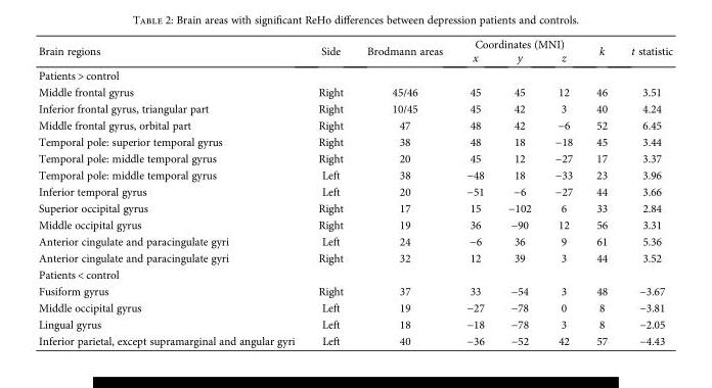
<table><thead><tr><td rowspan="2">Brain regions</td><td rowspan="2">Side</td><td rowspan="2">Brodmann areas</td><td colspan="3">Coordinates (MNI)</td><td rowspan="2">k</td><td rowspan="2">t statistic</td></tr><tr><td>x</td><td>y</td><td>z</td></tr></thead><tbody><tr><td colspan="8">Patients &gt; control</td></tr><tr><td>Middle frontal gyrus</td><td>Right</td><td>45/46</td><td>45</td><td>45</td><td>12</td><td>46</td><td>3.51</td></tr><tr><td>Inferior frontal gyrus, triangular part</td><td>Right</td><td>10/45</td><td>45</td><td>42</td><td>3</td><td>40</td><td>4.24</td></tr><tr><td>Middle frontal gyrus, orbital part</td><td>Right</td><td>47</td><td>48</td><td>42</td><td>−6</td><td>52</td><td>6.45</td></tr><tr><td>Temporal pole: superior temporal gyrus</td><td>Right</td><td>38</td><td>48</td><td>18</td><td>−18</td><td>45</td><td>3.44</td></tr><tr><td>Temporal pole: middle temporal gyrus</td><td>Right</td><td>20</td><td>45</td><td>12</td><td>−27</td><td>17</td><td>3.37</td></tr><tr><td>Temporal pole: middle temporal gyrus</td><td>Left</td><td>38</td><td>−48</td><td>18</td><td>−33</td><td>23</td><td>3.96</td></tr><tr><td>Inferior temporal gyrus</td><td>Left</td><td>20</td><td>−51</td><td>−6</td><td>−27</td><td>44</td><td>3.66</td></tr><tr><td>Superior occipital gyrus</td><td>Right</td><td>17</td><td>15</td><td>−102</td><td>6</td><td>33</td><td>2.84</td></tr><tr><td>Middle occipital gyrus</td><td>Right</td><td>19</td><td>36</td><td>−90</td><td>12</td><td>56</td><td>3.31</td></tr><tr><td>Anterior cingulate and paracingulate gyri</td><td>Left</td><td>24</td><td>−6</td><td>36</td><td>9</td><td>61</td><td>5.36</td></tr><tr><td>Anterior cingulate and paracingulate gyri</td><td>Right</td><td>32</td><td>12</td><td>39</td><td>3</td><td>44</td><td>3.52</td></tr><tr><td colspan="8">Patients &lt; control</td></tr><tr><td>Fusiform gyrus</td><td>Right</td><td>37</td><td>33</td><td>−54</td><td>3</td><td>48</td><td>−3.67</td></tr><tr><td>Middle occipital gyrus</td><td>Left</td><td>19</td><td>−27</td><td>−78</td><td>0</td><td>8</td><td>−3.81</td></tr><tr><td>Lingual gyrus</td><td>Left</td><td>18</td><td>−18</td><td>−78</td><td>3</td><td>8</td><td>−2.05</td></tr><tr><td>Inferior parietal, except supramarginal and angular gyri</td><td>Left</td><td>40</td><td>−36</td><td>−52</td><td>42</td><td>57</td><td>−4.43</td></tr></tbody></table>